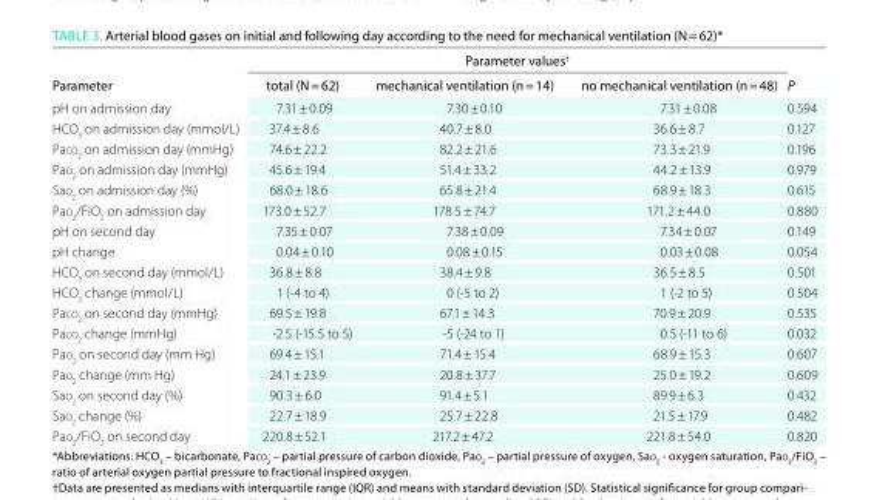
<table><thead><tr><td rowspan="2">Parameter</td><td colspan="3">Parameter values<sup>†</sup></td><td rowspan="2">P</td></tr><tr><td>total (N = 62)</td><td>mechanical ventilation (n = 14)</td><td>no mechanical ventilation (n = 48)</td></tr></thead><tbody><tr><td>pH on admission day</td><td>7.31 ± 0.09</td><td>7.30 ± 0.10</td><td>7.31 ± 0.08</td><td>0.594</td></tr><tr><td>HCO<sub>3</sub> on admission day (mmol/L)</td><td>37.4 ± 8.6</td><td>40.7 ± 8.0</td><td>36.6 ± 8.7</td><td>0.127</td></tr><tr><td>Paco<sub>2</sub> on admission day (mmHg)</td><td>74.6 ± 22.2</td><td>82.2 ± 21.6</td><td>73.3 ± 21.9</td><td>0.196</td></tr><tr><td>Pao<sub>2</sub> on admission day (mmHg)</td><td>45.6 ± 19.4</td><td>51.4 ± 33.2</td><td>44.2 ± 13.9</td><td>0.979</td></tr><tr><td>Sao<sub>2</sub> on admission day (%)</td><td>68.0 ± 18.6</td><td>65.8 ± 21.4</td><td>68.9 ± 18.3</td><td>0.615</td></tr><tr><td>Pao<sub>2</sub>/FiO<sub>2</sub> on admission day</td><td>173.0 ± 52.7</td><td>178.5 ± 74.7</td><td>171.2 ± 44.0</td><td>0.880</td></tr><tr><td>pH on second day</td><td>7.35 ± 0.07</td><td>7.38 ± 0.09</td><td>7.34 ± 0.07</td><td>0.149</td></tr><tr><td>pH change</td><td>0.04 ± 0.10</td><td>0.08 ± 0.15</td><td>0.03 ± 0.08</td><td>0.054</td></tr><tr><td>HCO<sub>3</sub> on second day (mmol/L)</td><td>36.8 ± 8.8</td><td>38.4 ± 9.8</td><td>36.5 ± 8.5</td><td>0.501</td></tr><tr><td>HCO<sub>3</sub> change (mmol/L)</td><td>1 (-4 to 4)</td><td>0 (-5 to 2)</td><td>1 (-2 to 5)</td><td>0.504</td></tr><tr><td>Paco<sub>2</sub> on second day (mmHg)</td><td>69.5 ± 19.8</td><td>67.1 ± 14.3</td><td>70.9 ± 20.9</td><td>0.535</td></tr><tr><td>Paco<sub>2</sub> change (mmHg)</td><td>-2.5 (-15.5 to 5)</td><td>-5 (-24 to 1)</td><td>0.5 (-11 to 6)</td><td>0.032</td></tr><tr><td>Pao<sub>2</sub> on second day (mm Hg)</td><td>69.4 ± 15.1</td><td>71.4 ± 15.4</td><td>68.9 ± 15.3</td><td>0.607</td></tr><tr><td>Pao<sub>2</sub> change (mm Hg)</td><td>24.1 ± 23.9</td><td>20.8 ± 37.7</td><td>25.0 ± 19.2</td><td>0.609</td></tr><tr><td>Sao<sub>2</sub> on second day (%)</td><td>90.3 ± 6.0</td><td>91.4 ± 5.1</td><td>89.9 ± 6.3</td><td>0.432</td></tr><tr><td>Sao<sub>2</sub> change (%)</td><td>22.7 ± 18.9</td><td>25.7 ± 22.8</td><td>21.5 ± 17.9</td><td>0.482</td></tr><tr><td>Pao<sub>2</sub>/FiO<sub>2</sub> on second day</td><td>220.8 ± 52.1</td><td>217.2 ± 47.2</td><td>221.8 ± 54.0</td><td>0.820</td></tr></tbody></table>